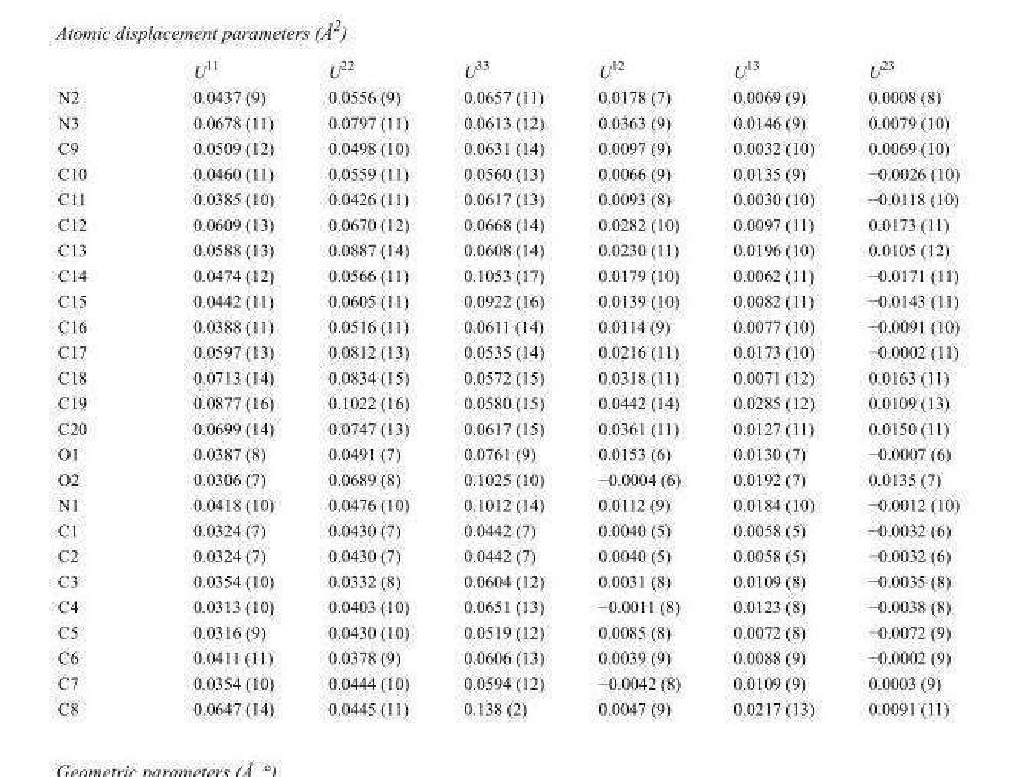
<table><thead><tr><td></td><td>U<sup>11</sup></td><td>U<sup>22</sup></td><td>U<sup>33</sup></td><td>U<sup>12</sup></td><td>U<sup>13</sup></td><td>U<sup>23</sup></td></tr></thead><tbody><tr><td>N2</td><td>0.0437 (9)</td><td>0.0556 (9)</td><td>0.0657 (11)</td><td>0.0178 (7)</td><td>0.0069 (9)</td><td>0.0008 (8)</td></tr><tr><td>N3</td><td>0.0678 (11)</td><td>0.0797 (11)</td><td>0.0613 (12)</td><td>0.0363 (9)</td><td>0.0146 (9)</td><td>0.0079 (10)</td></tr><tr><td>C9</td><td>0.0509 (12)</td><td>0.0498 (10)</td><td>0.0631 (14)</td><td>0.0097 (9)</td><td>0.0032 (10)</td><td>0.0069 (10)</td></tr><tr><td>C10</td><td>0.0460 (11)</td><td>0.0559 (11)</td><td>0.0560 (13)</td><td>0.0066 (9)</td><td>0.0135 (9)</td><td>−0.0026 (10)</td></tr><tr><td>C11</td><td>0.0385 (10)</td><td>0.0426 (11)</td><td>0.0617 (13)</td><td>0.0093 (8)</td><td>0.0030 (10)</td><td>−0.0118 (10)</td></tr><tr><td>C12</td><td>0.0609 (13)</td><td>0.0670 (12)</td><td>0.0668 (14)</td><td>0.0282 (10)</td><td>0.0097 (11)</td><td>0.0173 (11)</td></tr><tr><td>C13</td><td>0.0588 (13)</td><td>0.0887 (14)</td><td>0.0608 (14)</td><td>0.0230 (11)</td><td>0.0196 (10)</td><td>0.0105 (12)</td></tr><tr><td>C14</td><td>0.0474 (12)</td><td>0.0566 (11)</td><td>0.1053 (17)</td><td>0.0179 (10)</td><td>0.0062 (11)</td><td>−0.0171 (11)</td></tr><tr><td>C15</td><td>0.0442 (11)</td><td>0.0605 (11)</td><td>0.0922 (16)</td><td>0.0139 (10)</td><td>0.0082 (11)</td><td>−0.0143 (11)</td></tr><tr><td>C16</td><td>0.0388 (11)</td><td>0.0516 (11)</td><td>0.0611 (14)</td><td>0.0114 (9)</td><td>0.0077 (10)</td><td>−0.0091 (10)</td></tr><tr><td>C17</td><td>0.0597 (13)</td><td>0.0812 (13)</td><td>0.0535 (14)</td><td>0.0216 (11)</td><td>0.0173 (10)</td><td>−0.0002 (11)</td></tr><tr><td>C18</td><td>0.0713 (14)</td><td>0.0834 (15)</td><td>0.0572 (15)</td><td>0.0318 (11)</td><td>0.0071 (12)</td><td>0.0163 (11)</td></tr><tr><td>C19</td><td>0.0877 (16)</td><td>0.1022 (16)</td><td>0.0580 (15)</td><td>0.0442 (14)</td><td>0.0285 (12)</td><td>0.0109 (13)</td></tr><tr><td>C20</td><td>0.0699 (14)</td><td>0.0747 (13)</td><td>0.0617 (15)</td><td>0.0361 (11)</td><td>0.0127 (11)</td><td>0.0150 (11)</td></tr><tr><td>O1</td><td>0.0387 (8)</td><td>0.0491 (7)</td><td>0.0761 (9)</td><td>0.0153 (6)</td><td>0.0130 (7)</td><td>−0.0007 (6)</td></tr><tr><td>O2</td><td>0.0306 (7)</td><td>0.0689 (8)</td><td>0.1025 (10)</td><td>−0.0004 (6)</td><td>0.0192 (7)</td><td>0.0135 (7)</td></tr><tr><td>N1</td><td>0.0418 (10)</td><td>0.0476 (10)</td><td>0.1012 (14)</td><td>0.0112 (9)</td><td>0.0184 (10)</td><td>−0.0012 (10)</td></tr><tr><td>C1</td><td>0.0324 (7)</td><td>0.0430 (7)</td><td>0.0442 (7)</td><td>0.0040 (5)</td><td>0.0058 (5)</td><td>−0.0032 (6)</td></tr><tr><td>C2</td><td>0.0324 (7)</td><td>0.0430 (7)</td><td>0.0442 (7)</td><td>0.0040 (5)</td><td>0.0058 (5)</td><td>−0.0032 (6)</td></tr><tr><td>C3</td><td>0.0354 (10)</td><td>0.0332 (8)</td><td>0.0604 (12)</td><td>0.0031 (8)</td><td>0.0109 (8)</td><td>−0.0035 (8)</td></tr><tr><td>C4</td><td>0.0313 (10)</td><td>0.0403 (10)</td><td>0.0651 (13)</td><td>−0.0011 (8)</td><td>0.0123 (8)</td><td>−0.0038 (8)</td></tr><tr><td>C5</td><td>0.0316 (9)</td><td>0.0430 (10)</td><td>0.0519 (12)</td><td>0.0085 (8)</td><td>0.0072 (8)</td><td>−0.0072 (9)</td></tr><tr><td>C6</td><td>0.0411 (11)</td><td>0.0378 (9)</td><td>0.0606 (13)</td><td>0.0039 (9)</td><td>0.0088 (9)</td><td>−0.0002 (9)</td></tr><tr><td>C7</td><td>0.0354 (10)</td><td>0.0444 (10)</td><td>0.0594 (12)</td><td>−0.0042 (8)</td><td>0.0109 (9)</td><td>0.0003 (9)</td></tr><tr><td>C8</td><td>0.0647 (14)</td><td>0.0445 (11)</td><td>0.138 (2)</td><td>0.0047 (9)</td><td>0.0217 (13)</td><td>0.0091 (11)</td></tr></tbody></table>